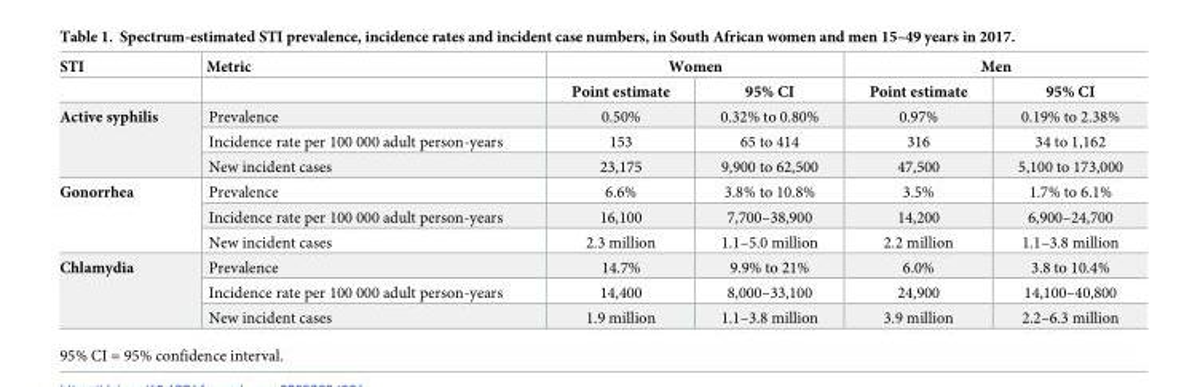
<table><thead><tr><td rowspan="2">STI</td><td rowspan="2">Metric</td><td colspan="2">Women</td><td colspan="2">Men</td></tr><tr><td>Point estimate</td><td>95% CI</td><td>Point estimate</td><td>95% CI</td></tr></thead><tbody><tr><td rowspan="3">Active syphilis</td><td>Prevalence</td><td>0.50%</td><td>0.32% to 0.80%</td><td>0.97%</td><td>0.19% to 2.38%</td></tr><tr><td>Incidence rate per 100 000 adult person-years</td><td>153</td><td>65 to 414</td><td>316</td><td>34 to 1,162</td></tr><tr><td>New incident cases</td><td>23,175</td><td>9,900 to 62,500</td><td>47,500</td><td>5,100 to 173,000</td></tr><tr><td rowspan="3">Gonorrhea</td><td>Prevalence</td><td>6.6%</td><td>3.8% to 10.8%</td><td>3.5%</td><td>1.7% to 6.1%</td></tr><tr><td>Incidence rate per 100 000 adult person-years</td><td>16,100</td><td>7,700–38,900</td><td>14,200</td><td>6,900–24,700</td></tr><tr><td>New incident cases</td><td>2.3 million</td><td>1.1–5.0 million</td><td>2.2 million</td><td>1.1–3.8 million</td></tr><tr><td rowspan="3">Chlamydia</td><td>Prevalence</td><td>14.7%</td><td>9.9% to 21%</td><td>6.0%</td><td>3.8 to 10.4%</td></tr><tr><td>Incidence rate per 100 000 adult person-years</td><td>14,400</td><td>8,000–33,100</td><td>24,900</td><td>14,100–40,800</td></tr><tr><td>New incident cases</td><td>1.9 million</td><td>1.1–3.8 million</td><td>3.9 million</td><td>2.2–6.3 million</td></tr></tbody></table>